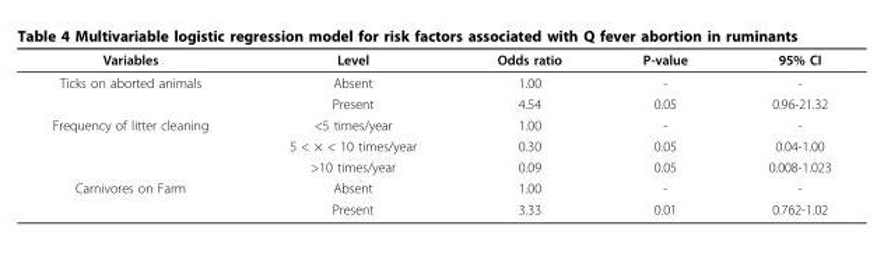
<table><thead><tr><td>Variables</td><td>Level</td><td>Odds ratio</td><td>P-value</td><td>95% CI</td></tr></thead><tbody><tr><td rowspan="2">Ticks on aborted animals</td><td>Absent</td><td>1.00</td><td>-</td><td>-</td></tr><tr><td>Present</td><td>4.54</td><td>0.05</td><td>0.96-21.32</td></tr><tr><td rowspan="3">Frequency of litter cleaning</td><td>&lt;5 times/year</td><td>1.00</td><td>-</td><td>-</td></tr><tr><td>5 &lt; × &lt; 10 times/year</td><td>0.30</td><td>0.05</td><td>0.04-1.00</td></tr><tr><td>&gt;10 times/year</td><td>0.09</td><td>0.05</td><td>0.008-1.023</td></tr><tr><td rowspan="2">Carnivores on Farm</td><td>Absent</td><td>1.00</td><td>-</td><td>-</td></tr><tr><td>Present</td><td>3.33</td><td>0.01</td><td>0.762-1.02</td></tr></tbody></table>